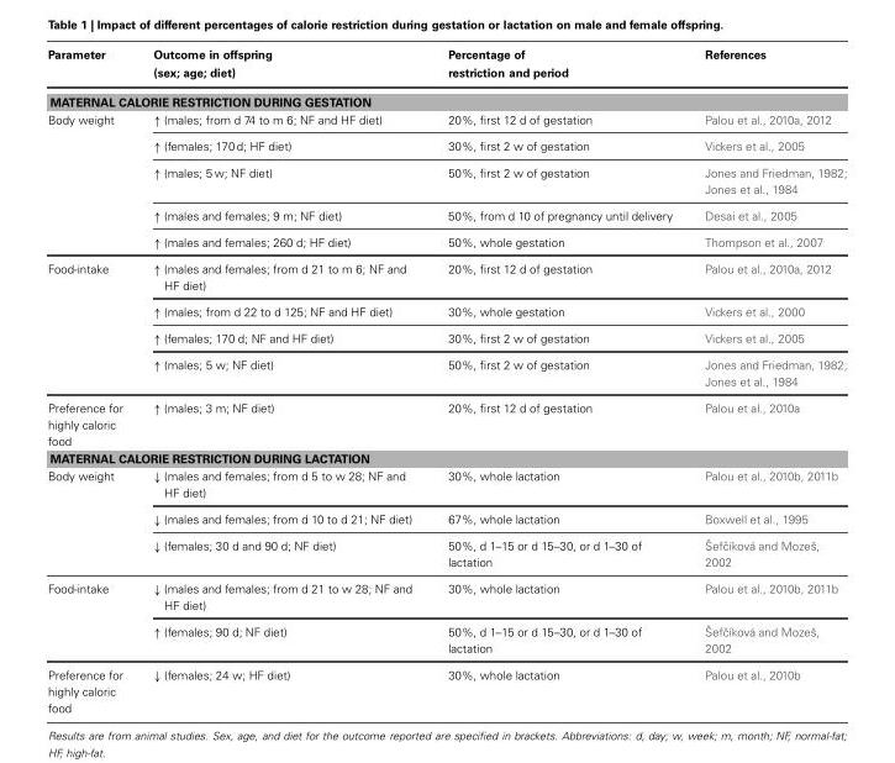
<table><thead><tr><td>Parameter</td><td>Outcome in offspring (sex; age; diet)</td><td>Percentage of restriction and period</td><td>References</td></tr></thead><tbody><tr><td colspan="4">MATERNAL CALORIE RESTRICTION DURING GESTATION</td></tr><tr><td rowspan="5">Body weight</td><td>↑ (males; from d 74 to m 6; NF and HF diet)</td><td>20%, first 12 d of gestation</td><td>Palou et al., 2010a, 2012</td></tr><tr><td>↑ (females; 170d; HF diet)</td><td>30%, first 2 w of gestation</td><td>Vickers et al., 2005</td></tr><tr><td>↑ (males; 5 w; NF diet)</td><td>50%, first 2 w of gestation</td><td>Jones and Friedman, 1982; Jones et al., 1984</td></tr><tr><td>↑ (males and females; 9 m; NF diet)</td><td>50%, from d 10 of pregnancy until delivery</td><td>Desai et al., 2005</td></tr><tr><td>↑ (males and females; 260 d; HF diet)</td><td>50%, whole gestation</td><td>Thompson et al., 2007</td></tr><tr><td rowspan="4">Food-intake</td><td>↑ (males and females; from d 21 to m 6; NF and HF diet)</td><td>20%, first 12 d of gestation</td><td>Palou et al., 2010a, 2012</td></tr><tr><td>↑ (males; from d 22 to d 125; NF and HF diet)</td><td>30%, whole gestation</td><td>Vickers et al., 2000</td></tr><tr><td>↑ (females; 170 d; NF and HF diet)</td><td>30%, first 2 w of gestation</td><td>Vickers et al., 2005</td></tr><tr><td>↑ (males; 5 w; NF diet)</td><td>50%, first 2 w of gestation</td><td>Jones and Friedman, 1982; Jones et al., 1984</td></tr><tr><td>Preference for highly caloric food</td><td>↑ (males; 3 m; NF diet)</td><td>20%, first 12 d of gestation</td><td>Palou et al., 2010a</td></tr><tr><td colspan="4">MATERNAL CALORIE RESTRICTION DURING LACTATION</td></tr><tr><td rowspan="3">Body weight</td><td>↓ (males and females; from d 5 to w 28; NF and HF diet)</td><td>30%, whole lactation</td><td>Palou et al., 2010b, 2011b</td></tr><tr><td>↓ (males and females; from d 10 to d 21; NF diet)</td><td>67%, whole lactation</td><td>Boxwell et al., 1995</td></tr><tr><td>↓ (females; 30 d and 90 d; NF diet)</td><td>50%, d 1–15 or d 15–30, or d 1–30 of lactation</td><td>Šefˇcíková and Mozeš, 2002</td></tr><tr><td rowspan="2">Food-intake</td><td>↓ (males and females; from d 21 to w 28; NF and HF diet)</td><td>30%, whole lactation</td><td>Palou et al., 2010b, 2011b</td></tr><tr><td>↑ (females; 90 d; NF diet)</td><td>50%, d 1–15 or d 15–30, or d 1–30 of lactation</td><td>Šefˇcíková and Mozeš, 2002</td></tr><tr><td>Preference for highly caloric food</td><td>↓ (females; 24 w; HF diet)</td><td>30%, whole lactation</td><td>Palou et al., 2010b</td></tr></tbody></table>